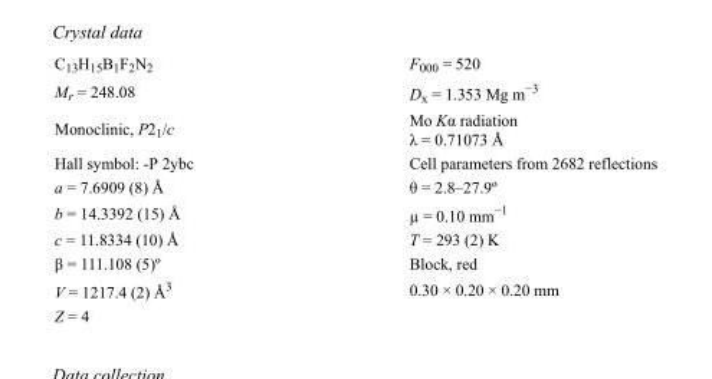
<table><tbody><tr><td>C<sub>13</sub>H<sub>15</sub>B<sub>1</sub>F<sub>2</sub>N<sub>2</sub></td><td>F<sub>000</sub> = 520</td></tr><tr><td>M<sub>r</sub> = 248.08</td><td>D<sub>x</sub> = 1.353 Mg m<sup>−3</sup></td></tr><tr><td>Monoclinic, P2<sub>1</sub>/c</td><td>Mo Kα radiation λ = 0.71073 Å</td></tr><tr><td>Hall symbol: -P 2ybc</td><td>Cell parameters from 2682 reflections</td></tr><tr><td>a = 7.6909 (8) Å</td><td>θ = 2.8–27.9º</td></tr><tr><td>b = 14.3392 (15) Å</td><td>µ = 0.10 mm<sup>−1</sup></td></tr><tr><td>c = 11.8334 (10) Å</td><td>T = 293 (2) K</td></tr><tr><td>β = 111.108 (5)º</td><td>Block, red</td></tr><tr><td>V = 1217.4 (2) Å<sup>3</sup></td><td>0.30 × 0.20 × 0.20 mm</td></tr><tr><td>Z = 4</td><td></td></tr></tbody></table>